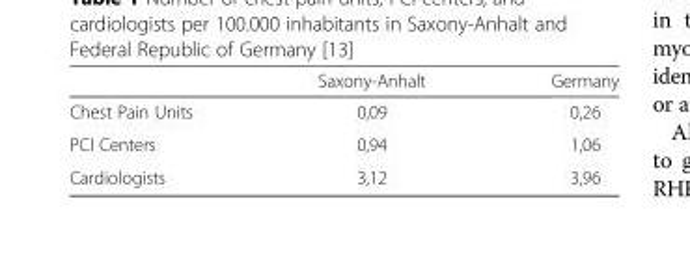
<table><thead><tr><td></td><td>Saxony-Anhalt</td><td>Germany</td></tr></thead><tbody><tr><td>Chest Pain Units</td><td>0,09</td><td>0,26</td></tr><tr><td>PCI Centers</td><td>0,94</td><td>1,06</td></tr><tr><td>Cardiologists</td><td>3,12</td><td>3,96</td></tr></tbody></table>